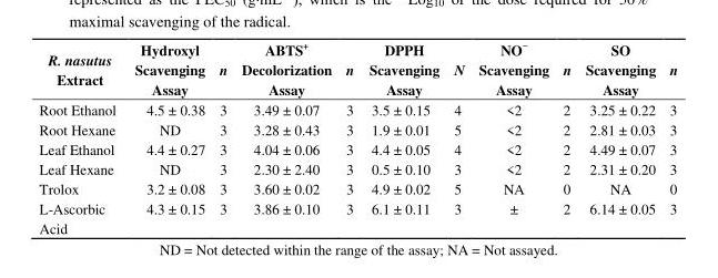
<table><thead><tr><td>R. nasutus Extract</td><td>Hydroxyl Scavenging Assay</td><td>n</td><td>ABTS<sup>+</sup> Decolorization Assay</td><td>n</td><td>DPPH Scavenging Assay</td><td>N</td><td>NO<sup>−</sup> Scavenging Assay</td><td>n</td><td>SO Scavenging Assay</td><td>n</td></tr></thead><tbody><tr><td>Root Ethanol</td><td>4.5 ± 0.38</td><td>3</td><td>3.49 ± 0.07</td><td>3</td><td>3.5 ± 0.15</td><td>4</td><td>&lt;2</td><td>2</td><td>3.25 ± 0.22</td><td>3</td></tr><tr><td>Root Hexane</td><td>ND</td><td>3</td><td>3.28 ± 0.43</td><td>3</td><td>1.9 ± 0.01</td><td>5</td><td>&lt;2</td><td>2</td><td>2.81 ± 0.03</td><td>3</td></tr><tr><td>Leaf Ethanol</td><td>4.4 ± 0.27</td><td>3</td><td>4.04 ± 0.06</td><td>3</td><td>4.4 ± 0.05</td><td>4</td><td>&lt;2</td><td>2</td><td>4.49 ± 0.07</td><td>3</td></tr><tr><td>Leaf Hexane</td><td>ND</td><td>3</td><td>2.30 ± 2.40</td><td>3</td><td>0.5 ± 0.10</td><td>3</td><td>&lt;2</td><td>2</td><td>2.31 ± 0.20</td><td>3</td></tr><tr><td>Trolox</td><td>3.2 ± 0.08</td><td>3</td><td>3.60 ± 0.02</td><td>3</td><td>4.9 ± 0.02</td><td>5</td><td>NA</td><td>0</td><td>NA</td><td>0</td></tr><tr><td>L-Ascorbic Acid</td><td>4.3 ± 0.15</td><td>3</td><td>3.86 ± 0.10</td><td>3</td><td>6.1 ± 0.11</td><td>3</td><td>±</td><td>2</td><td>6.14 ± 0.05</td><td>3</td></tr></tbody></table>